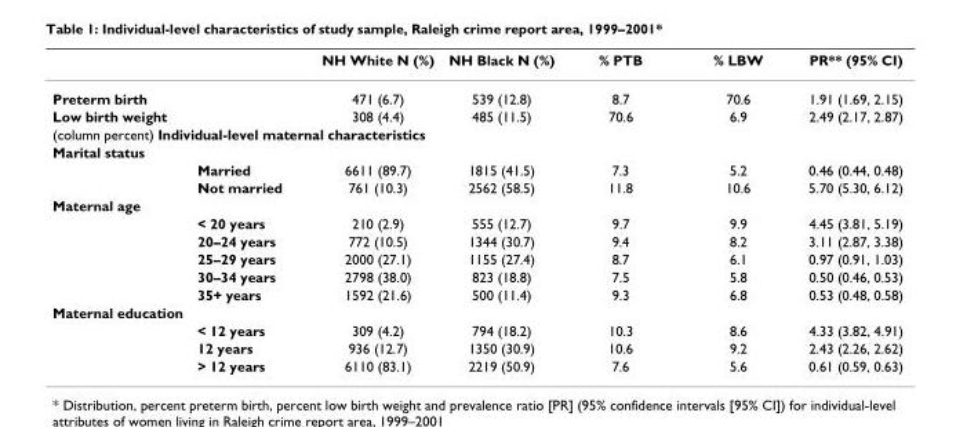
<table><thead><tr><td></td><td></td><td>NH White N (%)</td><td>NH Black N (%)</td><td>% PTB</td><td>% LBW</td><td>PR** (95% CI)</td></tr></thead><tbody><tr><td>Preterm birth</td><td></td><td>471 (6.7)</td><td>539 (12.8)</td><td>8.7</td><td>70.6</td><td>1.91 (1.69, 2.15)</td></tr><tr><td>Low birth weight</td><td></td><td>308 (4.4)</td><td>485 (11.5)</td><td>70.6</td><td>6.9</td><td>2.49 (2.17, 2.87)</td></tr><tr><td colspan="7">(column percent) Individual-level maternal characteristics</td></tr><tr><td colspan="7">Marital status</td></tr><tr><td></td><td>Married</td><td>6611 (89.7)</td><td>1815 (41.5)</td><td>7.3</td><td>5.2</td><td>0.46 (0.44, 0.48)</td></tr><tr><td></td><td>Not married</td><td>761 (10.3)</td><td>2562 (58.5)</td><td>11.8</td><td>10.6</td><td>5.70 (5.30, 6.12)</td></tr><tr><td colspan="7">Maternal age</td></tr><tr><td></td><td>&lt; 20 years</td><td>210 (2.9)</td><td>555 (12.7)</td><td>9.7</td><td>9.9</td><td>4.45 (3.81, 5.19)</td></tr><tr><td></td><td>20–24 years</td><td>772 (10.5)</td><td>1344 (30.7)</td><td>9.4</td><td>8.2</td><td>3.11 (2.87, 3.38)</td></tr><tr><td></td><td>25–29 years</td><td>2000 (27.1)</td><td>1155 (27.4)</td><td>8.7</td><td>6.1</td><td>0.97 (0.91, 1.03)</td></tr><tr><td></td><td>30–34 years</td><td>2798 (38.0)</td><td>823 (18.8)</td><td>7.5</td><td>5.8</td><td>0.50 (0.46, 0.53)</td></tr><tr><td></td><td>35+ years</td><td>1592 (21.6)</td><td>500 (11.4)</td><td>9.3</td><td>6.8</td><td>0.53 (0.48, 0.58)</td></tr><tr><td colspan="7">Maternal education</td></tr><tr><td></td><td>&lt; 12 years</td><td>309 (4.2)</td><td>794 (18.2)</td><td>10.3</td><td>8.6</td><td>4.33 (3.82, 4.91)</td></tr><tr><td></td><td>12 years</td><td>936 (12.7)</td><td>1350 (30.9)</td><td>10.6</td><td>9.2</td><td>2.43 (2.26, 2.62)</td></tr><tr><td></td><td>&gt; 12 years</td><td>6110 (83.1)</td><td>2219 (50.9)</td><td>7.6</td><td>5.6</td><td>0.61 (0.59, 0.63)</td></tr></tbody></table>